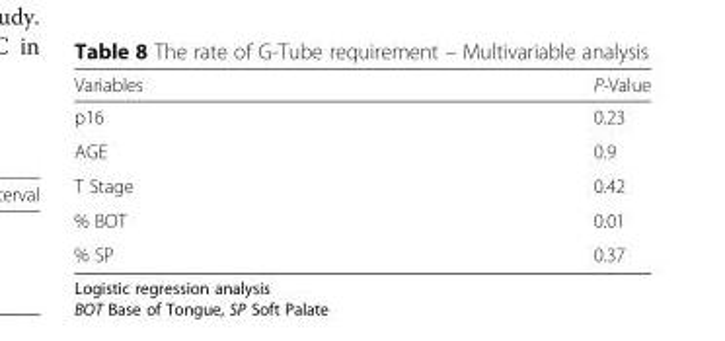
<table><thead><tr><td>Variables</td><td>P-Value</td></tr></thead><tbody><tr><td>p16</td><td>0.23</td></tr><tr><td>AGE</td><td>0.9</td></tr><tr><td>T Stage</td><td>0.42</td></tr><tr><td>% BOT</td><td>0.01</td></tr><tr><td>% SP</td><td>0.37</td></tr></tbody></table>